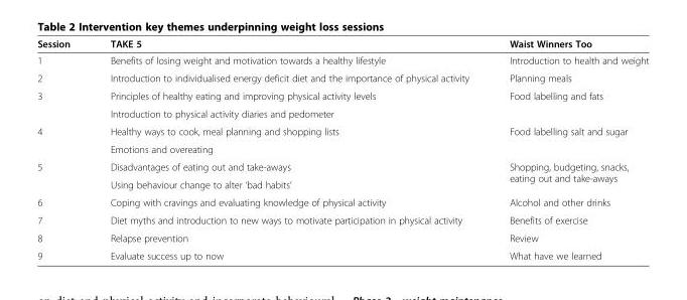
<table><thead><tr><td>Session</td><td>TAKE 5</td><td>Waist Winners Too</td></tr></thead><tbody><tr><td>1</td><td>Benefits of losing weight and motivation towards a healthy lifestyle</td><td>Introduction to health and weight</td></tr><tr><td>2</td><td>Introduction to individualised energy deficit diet and the importance of physical activity</td><td>Planning meals</td></tr><tr><td rowspan="2">3</td><td>Principles of healthy eating and improving physical activity levels</td><td rowspan="2">Food labelling and fats</td></tr><tr><td>Introduction to physical activity diaries and pedometer</td></tr><tr><td rowspan="2">4</td><td>Healthy ways to cook, meal planning and shopping lists</td><td rowspan="2">Food labelling salt and sugar</td></tr><tr><td>Emotions and overeating</td></tr><tr><td rowspan="2">5</td><td>Disadvantages of eating out and take-aways</td><td rowspan="2">Shopping, budgeting, snacks, eating out and take-aways</td></tr><tr><td>Using behaviour change to alter ‘bad habits’</td></tr><tr><td>6</td><td>Coping with cravings and evaluating knowledge of physical activity</td><td>Alcohol and other drinks</td></tr><tr><td>7</td><td>Diet myths and introduction to new ways to motivate participation in physical activity</td><td>Benefits of exercise</td></tr><tr><td>8</td><td>Relapse prevention</td><td>Review</td></tr><tr><td>9</td><td>Evaluate success up to now</td><td>What have we learned</td></tr></tbody></table>